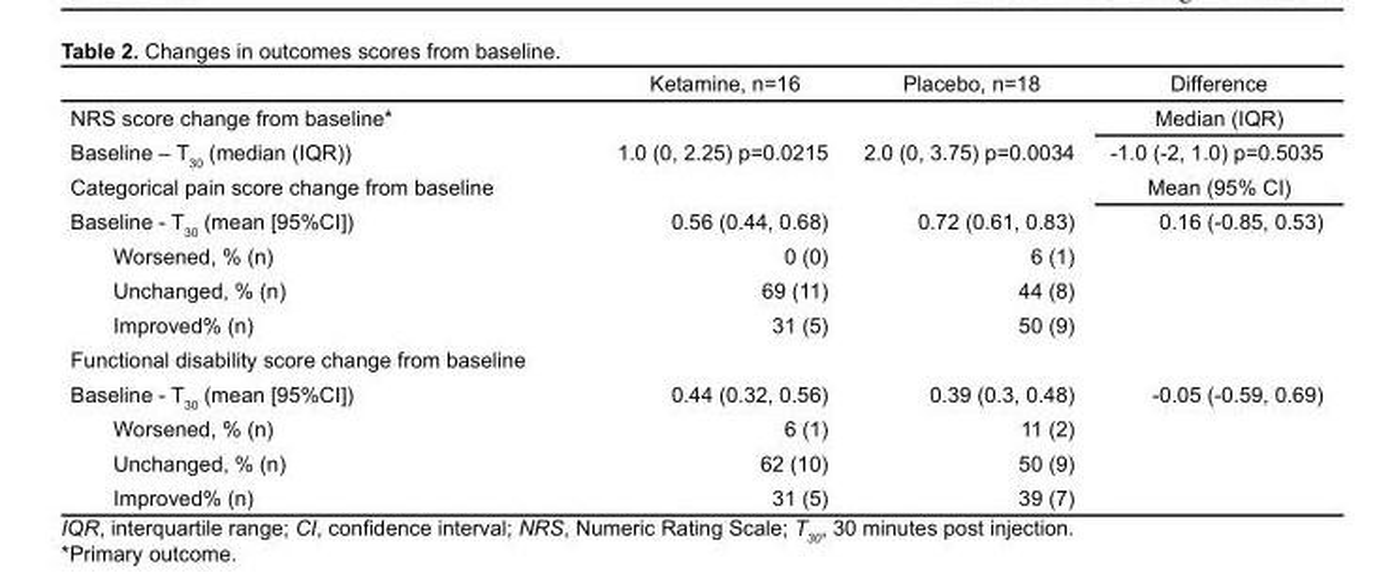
<table><thead><tr><td></td><td>Ketamine, n=16</td><td>Placebo, n=18</td><td>Difference</td></tr></thead><tbody><tr><td>NRS score change from baseline*</td><td></td><td></td><td>Median (IQR)</td></tr><tr><td>Baseline – T<sub>30</sub> (median (IQR))</td><td>1.0 (0, 2.25) p=0.0215</td><td>2.0 (0, 3.75) p=0.0034</td><td>-1.0 (-2, 1.0) p=0.5035</td></tr><tr><td>Categorical pain score change from baseline</td><td></td><td></td><td>Mean (95% CI)</td></tr><tr><td>Baseline - T<sub>30</sub> (mean [95%CI])</td><td>0.56 (0.44, 0.68)</td><td>0.72 (0.61, 0.83)</td><td>0.16 (-0.85, 0.53)</td></tr><tr><td>Worsened, % (n)</td><td>0 (0)</td><td>6 (1)</td><td></td></tr><tr><td>Unchanged, % (n)</td><td>69 (11)</td><td>44 (8)</td><td></td></tr><tr><td>Improved% (n)</td><td>31 (5)</td><td>50 (9)</td><td></td></tr><tr><td colspan="4">Functional disability score change from baseline</td></tr><tr><td>Baseline - T<sub>30</sub> (mean [95%CI])</td><td>0.44 (0.32, 0.56)</td><td>0.39 (0.3, 0.48)</td><td>-0.05 (-0.59, 0.69)</td></tr><tr><td>Worsened, % (n)</td><td>6 (1)</td><td>11 (2)</td><td></td></tr><tr><td>Unchanged, % (n)</td><td>62 (10)</td><td>50 (9)</td><td></td></tr><tr><td>Improved% (n)</td><td>31 (5)</td><td>39 (7)</td><td></td></tr></tbody></table>